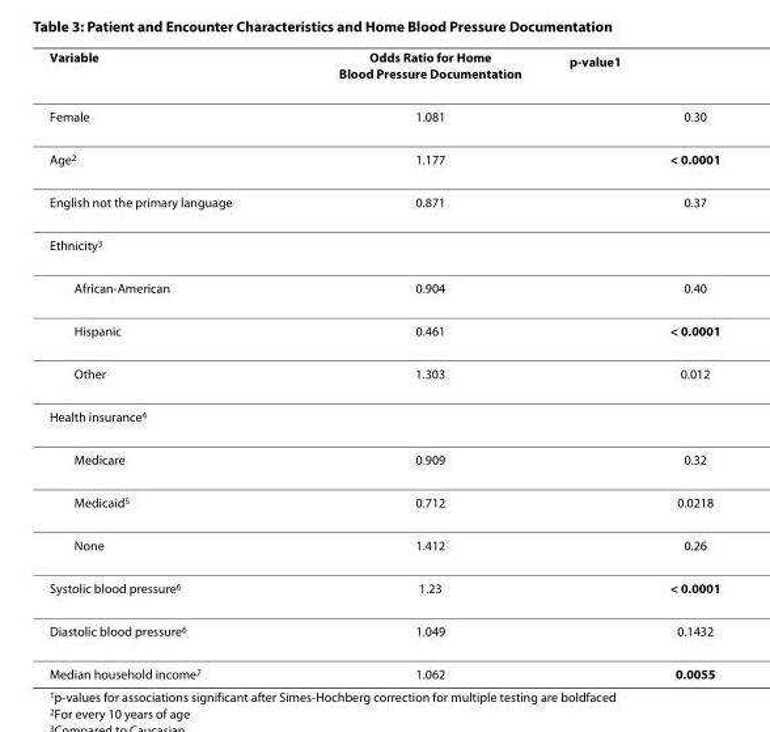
<table><thead><tr><td>Variable</td><td>Odds Ratio for Home Blood Pressure Documentation</td><td>p-value<sup>1</sup></td></tr></thead><tbody><tr><td>Female</td><td>1.081</td><td>0.30</td></tr><tr><td>Age<sup>2</sup></td><td>1.177</td><td>&lt; 0.0001</td></tr><tr><td>English not the primary language</td><td>0.871</td><td>0.37</td></tr><tr><td colspan="3">Ethnicity<sup>3</sup></td></tr><tr><td>African-American</td><td>0.904</td><td>0.40</td></tr><tr><td>Hispanic</td><td>0.461</td><td>&lt; 0.0001</td></tr><tr><td>Other</td><td>1.303</td><td>0.012</td></tr><tr><td colspan="3">Health insurance<sup>4</sup></td></tr><tr><td>Medicare</td><td>0.909</td><td>0.32</td></tr><tr><td>Medicaid<sup>5</sup></td><td>0.712</td><td>0.0218</td></tr><tr><td>None</td><td>1.412</td><td>0.26</td></tr><tr><td>Systolic blood pressure<sup>6</sup></td><td>1.23</td><td>&lt; 0.0001</td></tr><tr><td>Diastolic blood pressure<sup>6</sup></td><td>1.049</td><td>0.1432</td></tr><tr><td>Median household income<sup>7</sup></td><td>1.062</td><td>0.0055</td></tr></tbody></table>